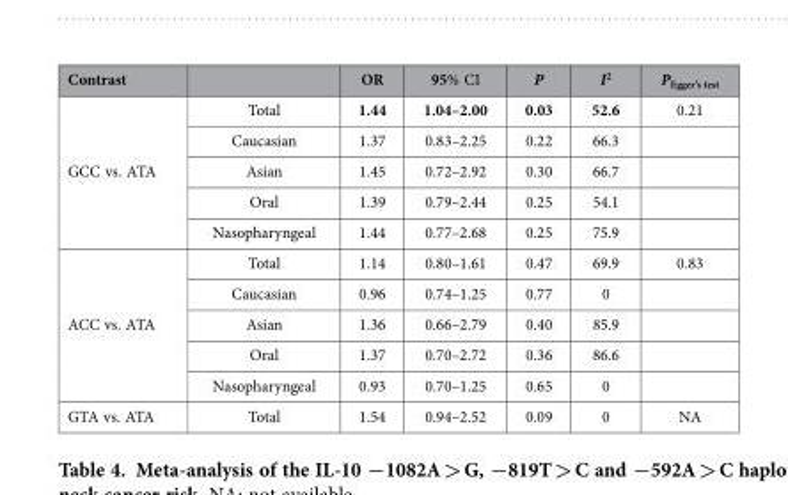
<table><thead><tr><td>Contrast</td><td></td><td>OR</td><td>95% CI</td><td>P</td><td>I<sup>2</sup></td><td>P<sub>Egger’s test</sub></td></tr></thead><tbody><tr><td rowspan="5">GCC vs. ATA</td><td>Total</td><td>1.44</td><td>1.04–2.00</td><td>0.03</td><td>52.6</td><td>0.21</td></tr><tr><td>Caucasian</td><td>1.37</td><td>0.83–2.25</td><td>0.22</td><td>66.3</td><td></td></tr><tr><td>Asian</td><td>1.45</td><td>0.72–2.92</td><td>0.30</td><td>66.7</td><td></td></tr><tr><td>Oral</td><td>1.39</td><td>0.79–2.44</td><td>0.25</td><td>54.1</td><td></td></tr><tr><td>Nasopharyngeal</td><td>1.44</td><td>0.77–2.68</td><td>0.25</td><td>75.9</td><td></td></tr><tr><td rowspan="5">ACC vs. ATA</td><td>Total</td><td>1.14</td><td>0.80–1.61</td><td>0.47</td><td>69.9</td><td>0.83</td></tr><tr><td>Caucasian</td><td>0.96</td><td>0.74–1.25</td><td>0.77</td><td>0</td><td></td></tr><tr><td>Asian</td><td>1.36</td><td>0.66–2.79</td><td>0.40</td><td>85.9</td><td></td></tr><tr><td>Oral</td><td>1.37</td><td>0.70–2.72</td><td>0.36</td><td>86.6</td><td></td></tr><tr><td>Nasopharyngeal</td><td>0.93</td><td>0.70–1.25</td><td>0.65</td><td>0</td><td></td></tr><tr><td>GTA vs. ATA</td><td>Total</td><td>1.54</td><td>0.94–2.52</td><td>0.09</td><td>0</td><td>NA</td></tr></tbody></table>